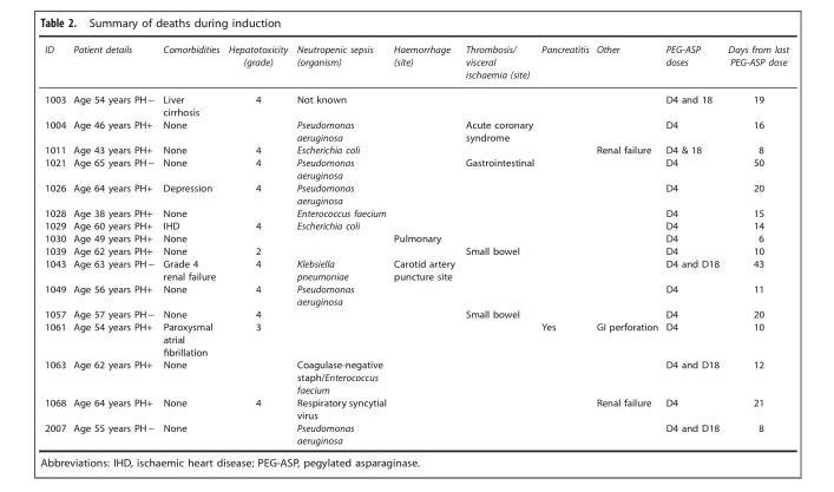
<table><thead><tr><td>ID</td><td>Patient details</td><td>Comorbidities</td><td>Hepatotoxicity (grade)</td><td>Neutropenic sepsis (organism)</td><td>Haemorrhage (site)</td><td>Thrombosis/ visceral ischaemia (site)</td><td>Pancreatitis</td><td>Other</td><td>PEG-ASP doses</td><td>Days from last PEG-ASP dose</td></tr></thead><tbody><tr><td>1003</td><td>Age 54 years PH −</td><td>Liver cirrhosis</td><td>4</td><td>Not known</td><td></td><td></td><td></td><td></td><td>D4 and 18</td><td>19</td></tr><tr><td>1004</td><td>Age 46 years PH+</td><td>None</td><td></td><td>Pseudomonas aeruginosa</td><td></td><td>Acute coronary syndrome</td><td></td><td></td><td>D4</td><td>16</td></tr><tr><td>1011</td><td>Age 43 years PH+</td><td>None</td><td>4</td><td>Escherichia coli</td><td></td><td></td><td></td><td>Renal failure</td><td>D4 &amp; 18</td><td>8</td></tr><tr><td>1021</td><td>Age 65 years PH −</td><td>None</td><td>4</td><td>Pseudomonas aeruginosa</td><td></td><td>Gastrointestinal</td><td></td><td></td><td>D4</td><td>50</td></tr><tr><td>1026</td><td>Age 64 years PH+</td><td>Depression</td><td>4</td><td>Pseudomonas aeruginosa</td><td></td><td></td><td></td><td></td><td>D4</td><td>20</td></tr><tr><td>1028</td><td>Age 38 years PH+</td><td>None</td><td></td><td>Enterococcus faecium</td><td></td><td></td><td></td><td></td><td>D4</td><td>15</td></tr><tr><td>1029</td><td>Age 60 years PH+</td><td>IHD</td><td>4</td><td>Escherichia coli</td><td></td><td></td><td></td><td></td><td>D4</td><td>14</td></tr><tr><td>1030</td><td>Age 49 years PH+</td><td>None</td><td></td><td></td><td>Pulmonary</td><td></td><td></td><td></td><td>D4</td><td>6</td></tr><tr><td>1039</td><td>Age 62 years PH+</td><td>None</td><td>2</td><td></td><td></td><td>Small bowel</td><td></td><td></td><td>D4</td><td>10</td></tr><tr><td>1043</td><td>Age 63 years PH −</td><td>Grade 4 renal failure</td><td>4</td><td>Klebsiella pneumoniae</td><td>Carotid artery puncture site</td><td></td><td></td><td></td><td>D4 and D18</td><td>43</td></tr><tr><td>1049</td><td>Age 56 years PH+</td><td>None</td><td>4</td><td>Pseudomonas aeruginosa</td><td></td><td></td><td></td><td></td><td>D4</td><td>11</td></tr><tr><td>1057</td><td>Age 57 years PH −</td><td>None</td><td>4</td><td></td><td></td><td>Small bowel</td><td></td><td></td><td>D4</td><td>20</td></tr><tr><td>1061</td><td>Age 54 years PH+</td><td>Paroxysmal atrial fibrillation</td><td>3</td><td></td><td></td><td></td><td>Yes</td><td>GI perforation</td><td>D4</td><td>10</td></tr><tr><td>1063</td><td>Age 62 years PH+</td><td>None</td><td></td><td>Coagulase-negative staph/Enterococcus faecium</td><td></td><td></td><td></td><td></td><td>D4 and D18</td><td>12</td></tr><tr><td>1068</td><td>Age 64 years PH+</td><td>None</td><td>4</td><td>Respiratory syncytial virus</td><td></td><td></td><td></td><td>Renal failure</td><td>D4</td><td>21</td></tr><tr><td>2007</td><td>Age 55 years PH −</td><td>None</td><td></td><td>Pseudomonas aeruginosa</td><td></td><td></td><td></td><td></td><td>D4 and D18</td><td>8</td></tr></tbody></table>